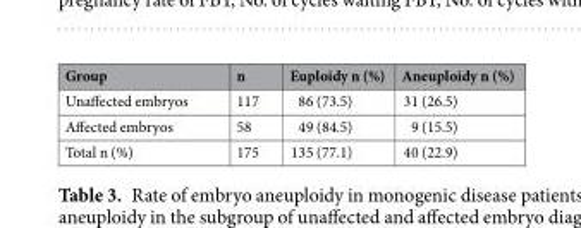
<table><thead><tr><td>Group</td><td>n</td><td>Euploidy n (%)</td><td>Aneuploidy n (%)</td></tr></thead><tbody><tr><td>Unaffected embryos</td><td>117</td><td>86 (73.5)</td><td>31 (26.5)</td></tr><tr><td>Affected embryos</td><td>58</td><td>49 (84.5)</td><td>9 (15.5)</td></tr><tr><td>Total n (%)</td><td>175</td><td>135 (77.1)</td><td>40 (22.9)</td></tr></tbody></table>